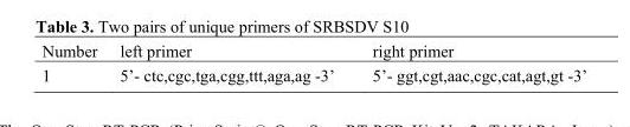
<table><thead><tr><td>Number</td><td>left primer</td><td>right primer</td></tr></thead><tbody><tr><td>1</td><td>5’- ctc,cgc,tga,cgg,ttt,aga,ag -3’</td><td>5’- ggt,cgt,aac,cgc,cat,agt,gt -3’</td></tr></tbody></table>